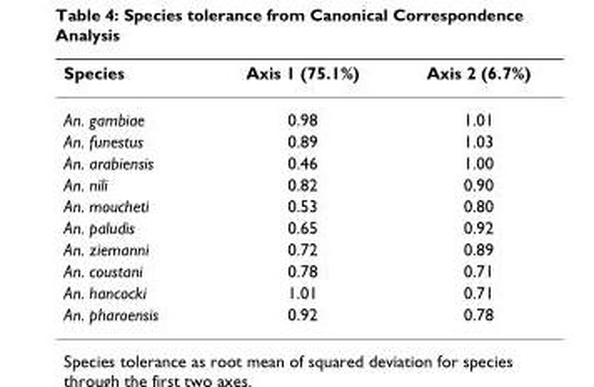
<table><thead><tr><td>Species</td><td>Axis 1 (75.1%)</td><td>Axis 2 (6.7%)</td></tr></thead><tbody><tr><td>An. gambiae</td><td>0.98</td><td>1.01</td></tr><tr><td>An. funestus</td><td>0.89</td><td>1.03</td></tr><tr><td>An. arabiensis</td><td>0.46</td><td>1.00</td></tr><tr><td>An. nili</td><td>0.82</td><td>0.90</td></tr><tr><td>An. moucheti</td><td>0.53</td><td>0.80</td></tr><tr><td>An. paludis</td><td>0.65</td><td>0.92</td></tr><tr><td>An. ziemanni</td><td>0.72</td><td>0.89</td></tr><tr><td>An. coustani</td><td>0.78</td><td>0.71</td></tr><tr><td>An. hancocki</td><td>1.01</td><td>0.71</td></tr><tr><td>An. pharoensis</td><td>0.92</td><td>0.78</td></tr></tbody></table>